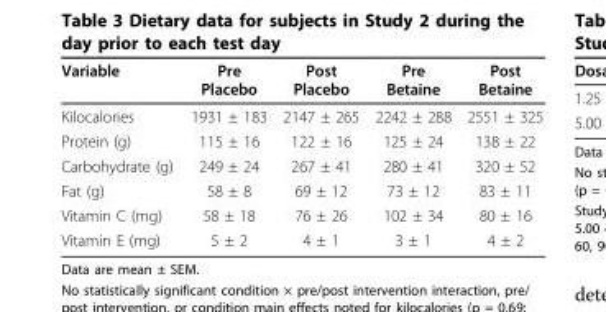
<table><thead><tr><td>Variable</td><td>Pre Placebo</td><td>Post Placebo</td><td>Pre Betaine</td><td>Post Betaine</td></tr></thead><tbody><tr><td>Kilocalories</td><td>1931 ± 183</td><td>2147 ± 265</td><td>2242 ± 288</td><td>2551 ± 325</td></tr><tr><td>Protein (g)</td><td>115 ± 16</td><td>122 ± 16</td><td>125 ± 24</td><td>138 ± 22</td></tr><tr><td>Carbohydrate (g)</td><td>249 ± 24</td><td>267 ± 41</td><td>280 ± 41</td><td>320 ± 52</td></tr><tr><td>Fat (g)</td><td>58 ± 8</td><td>69 ± 12</td><td>73 ± 12</td><td>83 ± 11</td></tr><tr><td>Vitamin C (mg)</td><td>58 ± 18</td><td>76 ± 26</td><td>102 ± 34</td><td>80 ± 16</td></tr><tr><td>Vitamin E (mg)</td><td>5 ± 2</td><td>4 ± 1</td><td>3 ± 1</td><td>4 ± 2</td></tr></tbody></table>